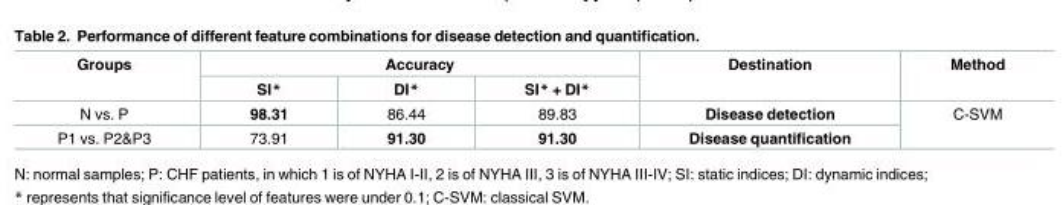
<table><thead><tr><td rowspan="2">Groups</td><td colspan="3">Accuracy</td><td rowspan="2">Destination</td><td rowspan="2">Method</td></tr><tr><td>SI*</td><td>DI*</td><td>SI* + DI*</td></tr></thead><tbody><tr><td>N vs. P</td><td>98.31</td><td>86.44</td><td>89.83</td><td>Disease detection</td><td rowspan="2">C-SVM</td></tr><tr><td>P1 vs. P2&amp;P3</td><td>73.91</td><td>91.30</td><td>91.30</td><td>Disease quantification</td></tr></tbody></table>